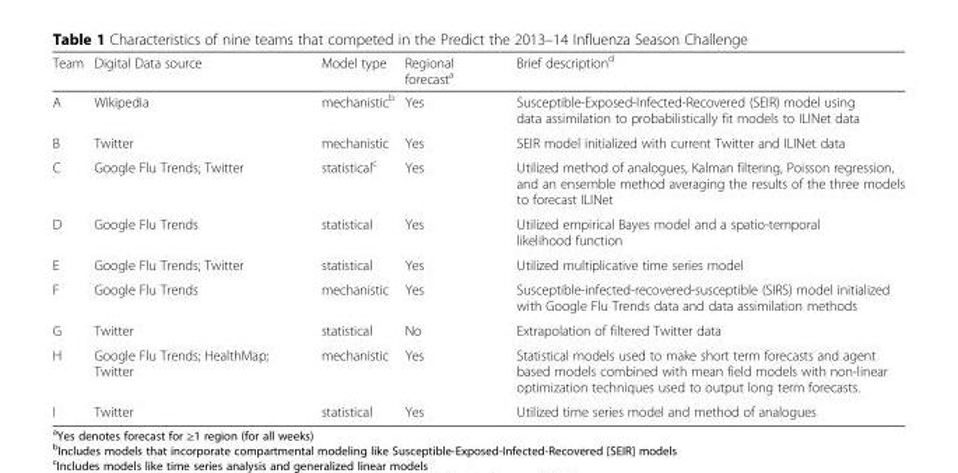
<table><thead><tr><td>Team</td><td>Digital Data source</td><td>Model type</td><td>Regional forecast<sup>a</sup></td><td>Brief description<sup>d</sup></td></tr></thead><tbody><tr><td>A</td><td>Wikipedia</td><td>mechanistic<sup>b</sup></td><td>Yes</td><td>Susceptible-Exposed-Infected-Recovered (SEIR) model using data assimilation to probabilistically fit models to ILINet data</td></tr><tr><td>B</td><td>Twitter</td><td>mechanistic</td><td>Yes</td><td>SEIR model initialized with current Twitter and ILINet data</td></tr><tr><td>C</td><td>Google Flu Trends; Twitter</td><td>statistical<sup>c</sup></td><td>Yes</td><td>Utilized method of analogues, Kalman filtering, Poisson regression, and an ensemble method averaging the results of the three models to forecast ILINet</td></tr><tr><td>D</td><td>Google Flu Trends</td><td>statistical</td><td>Yes</td><td>Utilized empirical Bayes model and a spatio-temporal likelihood function</td></tr><tr><td>E</td><td>Google Flu Trends; Twitter</td><td>statistical</td><td>Yes</td><td>Utilized multiplicative time series model</td></tr><tr><td>F</td><td>Google Flu Trends</td><td>mechanistic</td><td>Yes</td><td>Susceptible-infected-recovered-susceptible (SIRS) model initialized with Google Flu Trends data and data assimilation methods</td></tr><tr><td>G</td><td>Twitter</td><td>statistical</td><td>No</td><td>Extrapolation of filtered Twitter data</td></tr><tr><td>H</td><td>Google Flu Trends; HealthMap; Twitter</td><td>mechanistic</td><td>Yes</td><td>Statistical models used to make short term forecasts and agent based models combined with mean field models with non-linear optimization techniques used to output long term forecasts.</td></tr><tr><td>I</td><td>Twitter</td><td>statistical</td><td>Yes</td><td>Utilized time series model and method of analogues</td></tr></tbody></table>